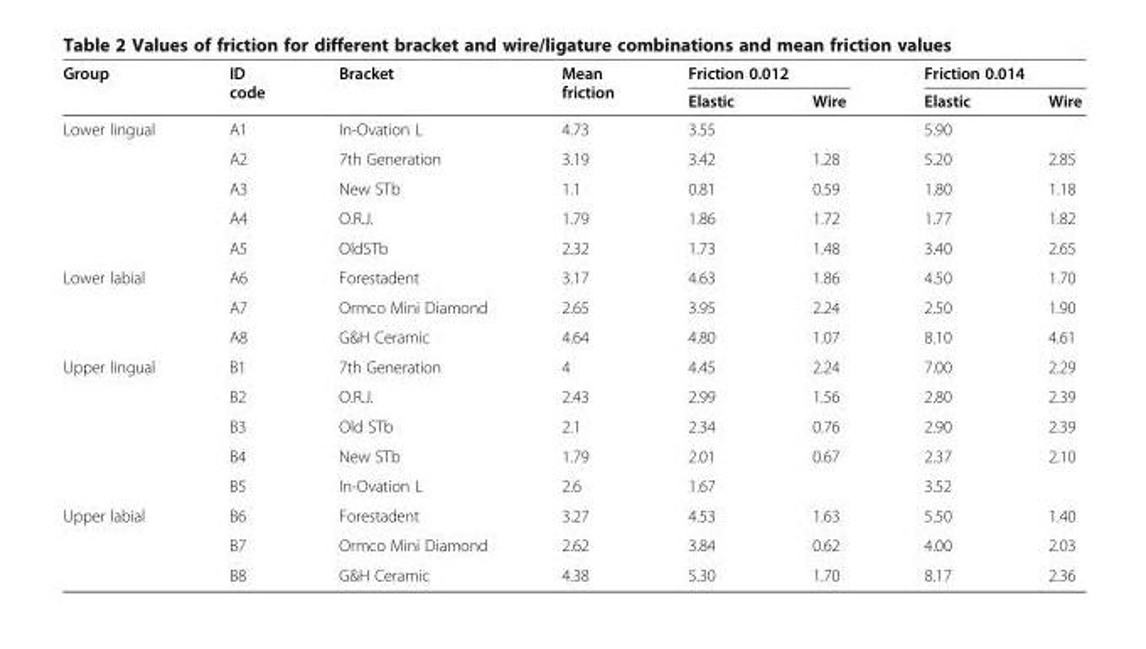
<table><thead><tr><td rowspan="2">Group</td><td rowspan="2">ID code</td><td rowspan="2">Bracket</td><td rowspan="2">Mean friction</td><td colspan="2">Friction 0.012</td><td colspan="2">Friction 0.014</td></tr><tr><td>Elastic</td><td>Wire</td><td>Elastic</td><td>Wire</td></tr></thead><tbody><tr><td rowspan="5">Lower lingual</td><td>A1</td><td>In-Ovation L</td><td>4.73</td><td colspan="2">3.55</td><td colspan="2">5.90</td></tr><tr><td>A2</td><td>7th Generation</td><td>3.19</td><td>3.42</td><td>1.28</td><td>5.20</td><td>2.85</td></tr><tr><td>A3</td><td>New STb</td><td>1.1</td><td>0.81</td><td>0.59</td><td>1.80</td><td>1.18</td></tr><tr><td>A4</td><td>O.R.J.</td><td>1.79</td><td>1.86</td><td>1.72</td><td>1.77</td><td>1.82</td></tr><tr><td>A5</td><td>OldSTb</td><td>2.32</td><td>1.73</td><td>1.48</td><td>3.40</td><td>2.65</td></tr><tr><td rowspan="3">Lower labial</td><td>A6</td><td>Forestadent</td><td>3.17</td><td>4.63</td><td>1.86</td><td>4.50</td><td>1.70</td></tr><tr><td>A7</td><td>Ormco Mini Diamond</td><td>2.65</td><td>3.95</td><td>2.24</td><td>2.50</td><td>1.90</td></tr><tr><td>A8</td><td>G&amp;H Ceramic</td><td>4.64</td><td>4.80</td><td>1.07</td><td>8.10</td><td>4.61</td></tr><tr><td rowspan="5">Upper lingual</td><td>B1</td><td>7th Generation</td><td>4</td><td>4.45</td><td>2.24</td><td>7.00</td><td>2.29</td></tr><tr><td>B2</td><td>O.R.J.</td><td>2.43</td><td>2.99</td><td>1.56</td><td>2.80</td><td>2.39</td></tr><tr><td>B3</td><td>Old STb</td><td>2.1</td><td>2.34</td><td>0.76</td><td>2.90</td><td>2.39</td></tr><tr><td>B4</td><td>New STb</td><td>1.79</td><td>2.01</td><td>0.67</td><td>2.37</td><td>2.10</td></tr><tr><td>B5</td><td>In-Ovation L</td><td>2.6</td><td colspan="2">1.67</td><td colspan="2">3.52</td></tr><tr><td rowspan="3">Upper labial</td><td>B6</td><td>Forestadent</td><td>3.27</td><td>4.53</td><td>1.63</td><td>5.50</td><td>1.40</td></tr><tr><td>B7</td><td>Ormco Mini Diamond</td><td>2.62</td><td>3.84</td><td>0.62</td><td>4.00</td><td>2.03</td></tr><tr><td>B8</td><td>G&amp;H Ceramic</td><td>4.38</td><td>5.30</td><td>1.70</td><td>8.17</td><td>2.36</td></tr></tbody></table>